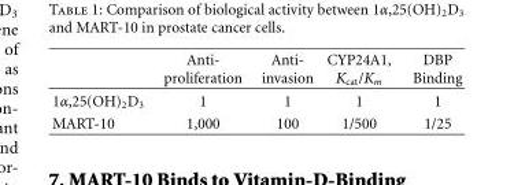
<table><thead><tr><td></td><td>Anti- proliferation</td><td>Anti- invasion</td><td>CYP24A1, K<sub>cat</sub>/K<sub>m</sub></td><td>DBP Binding</td></tr></thead><tbody><tr><td>1α,25(OH)<sub>2</sub>D<sub>3</sub></td><td>1</td><td>1</td><td>1</td><td>1</td></tr><tr><td>MART-10</td><td>1,000</td><td>100</td><td>1/500</td><td>1/25</td></tr></tbody></table>